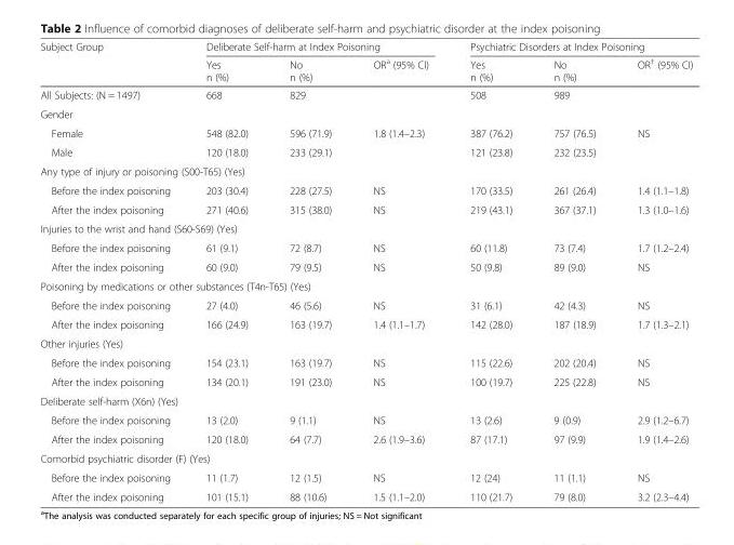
<table><thead><tr><td rowspan="2">Subject Group</td><td colspan="3">Deliberate Self-harm at Index Poisoning</td><td colspan="3">Psychiatric Disorders at Index Poisoning</td></tr><tr><td>Yes n (%)</td><td>No n (%)</td><td>OR<sup>a</sup> (95% CI)</td><td>Yes n (%)</td><td>No n (%)</td><td>OR<sup>†</sup> (95% CI)</td></tr></thead><tbody><tr><td>All Subjects: (N = 1497)</td><td>668</td><td>829</td><td></td><td>508</td><td>989</td><td></td></tr><tr><td colspan="7">Gender</td></tr><tr><td>Female</td><td>548 (82.0)</td><td>596 (71.9)</td><td>1.8 (1.4–2.3)</td><td>387 (76.2)</td><td>757 (76.5)</td><td>NS</td></tr><tr><td>Male</td><td>120 (18.0)</td><td>233 (29.1)</td><td></td><td>121 (23.8)</td><td>232 (23.5)</td><td></td></tr><tr><td colspan="7">Any type of injury or poisoning (S00-T65) (Yes)</td></tr><tr><td>Before the index poisoning</td><td>203 (30.4)</td><td>228 (27.5)</td><td>NS</td><td>170 (33.5)</td><td>261 (26.4)</td><td>1.4 (1.1–1.8)</td></tr><tr><td>After the index poisoning</td><td>271 (40.6)</td><td>315 (38.0)</td><td>NS</td><td>219 (43.1)</td><td>367 (37.1)</td><td>1.3 (1.0–1.6)</td></tr><tr><td colspan="7">Injuries to the wrist and hand (S60-S69) (Yes)</td></tr><tr><td>Before the index poisoning</td><td>61 (9.1)</td><td>72 (8.7)</td><td>NS</td><td>60 (11.8)</td><td>73 (7.4)</td><td>1.7 (1.2–2.4)</td></tr><tr><td>After the index poisoning</td><td>60 (9.0)</td><td>79 (9.5)</td><td>NS</td><td>50 (9.8)</td><td>89 (9.0)</td><td>NS</td></tr><tr><td colspan="7">Poisoning by medications or other substances (T4n-T65) (Yes)</td></tr><tr><td>Before the index poisoning</td><td>27 (4.0)</td><td>46 (5.6)</td><td>NS</td><td>31 (6.1)</td><td>42 (4.3)</td><td>NS</td></tr><tr><td>After the index poisoning</td><td>166 (24.9)</td><td>163 (19.7)</td><td>1.4 (1.1–1.7)</td><td>142 (28.0)</td><td>187 (18.9)</td><td>1.7 (1.3–2.1)</td></tr><tr><td colspan="7">Other injuries (Yes)</td></tr><tr><td>Before the index poisoning</td><td>154 (23.1)</td><td>163 (19.7)</td><td>NS</td><td>115 (22.6)</td><td>202 (20.4)</td><td>NS</td></tr><tr><td>After the index poisoning</td><td>134 (20.1)</td><td>191 (23.0)</td><td>NS</td><td>100 (19.7)</td><td>225 (22.8)</td><td>NS</td></tr><tr><td colspan="7">Deliberate self-harm (X6n) (Yes)</td></tr><tr><td>Before the index poisoning</td><td>13 (2.0)</td><td>9 (1.1)</td><td>NS</td><td>13 (2.6)</td><td>9 (0.9)</td><td>2.9 (1.2–6.7)</td></tr><tr><td>After the index poisoning</td><td>120 (18.0)</td><td>64 (7.7)</td><td>2.6 (1.9–3.6)</td><td>87 (17.1)</td><td>97 (9.9)</td><td>1.9 (1.4–2.6)</td></tr><tr><td colspan="7">Comorbid psychiatric disorder (F) (Yes)</td></tr><tr><td>Before the index poisoning</td><td>11 (1.7)</td><td>12 (1.5)</td><td>NS</td><td>12 (24)</td><td>11 (1.1)</td><td>NS</td></tr><tr><td>After the index poisoning</td><td>101 (15.1)</td><td>88 (10.6)</td><td>1.5 (1.1–2.0)</td><td>110 (21.7)</td><td>79 (8.0)</td><td>3.2 (2.3–4.4)</td></tr></tbody></table>